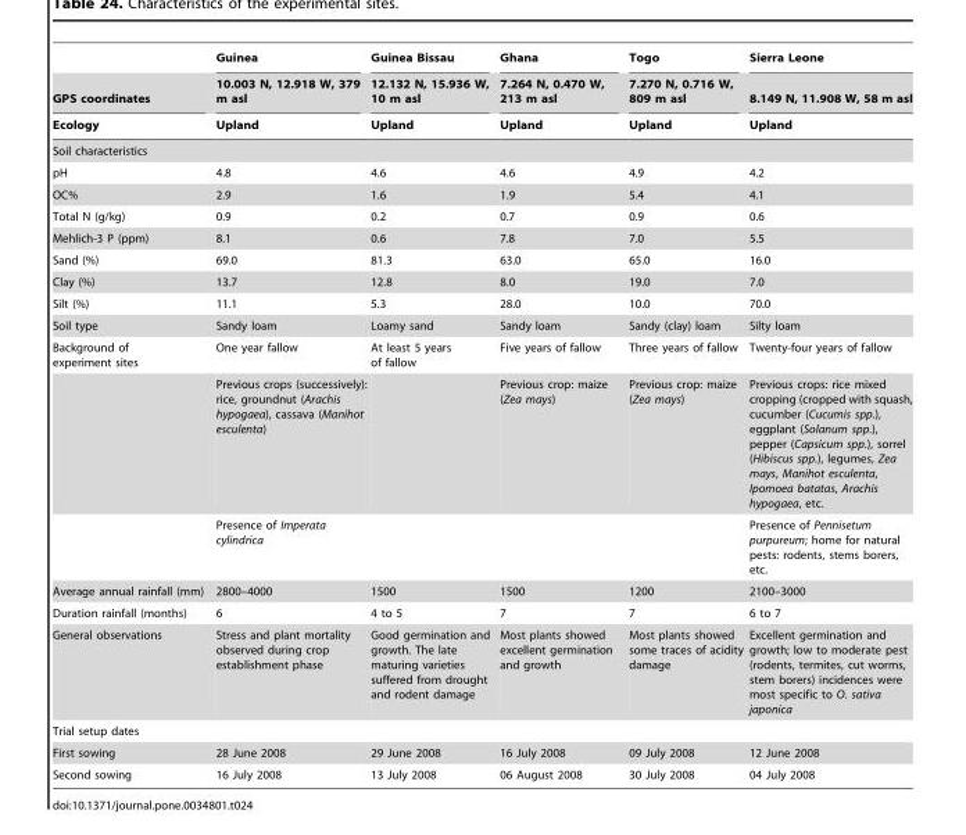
<table><thead><tr><td rowspan="3">GPS coordinates Ecology</td><td rowspan="3">Guinea 10.003 N, 12.918 W, 379 m asl Upland</td><td rowspan="3">Guinea Bissau 12.132 N, 15.936 W, 10 m asl Upland</td><td rowspan="3">Ghana 7.264 N, 0.470 W, 213 m asl Upland</td><td rowspan="3">Togo 7.270 N, 0.716 W, 809 m asl Upland</td><td rowspan="3">Sierra Leone 8.149 N, 11.908 W, 58 m asl Upland</td></tr><tr></tr><tr></tr></thead><tbody><tr><td colspan="6">Soil characteristics</td></tr><tr><td>pH</td><td>4.8</td><td>4.6</td><td>4.6</td><td>4.9</td><td>4.2</td></tr><tr><td>OC%</td><td>2.9</td><td>1.6</td><td>1.9</td><td>5.4</td><td>4.1</td></tr><tr><td>Total N (g/kg)</td><td>0.9</td><td>0.2</td><td>0.7</td><td>0.9</td><td>0.6</td></tr><tr><td>Mehlich-3 P (ppm)</td><td>8.1</td><td>0.6</td><td>7.8</td><td>7.0</td><td>5.5</td></tr><tr><td>Sand (%)</td><td>69.0</td><td>81.3</td><td>63.0</td><td>65.0</td><td>16.0</td></tr><tr><td>Clay (%)</td><td>13.7</td><td>12.8</td><td>8.0</td><td>19.0</td><td>7.0</td></tr><tr><td>Silt (%)</td><td>11.1</td><td>5.3</td><td>28.0</td><td>10.0</td><td>70.0</td></tr><tr><td>Soil type</td><td>Sandy loam</td><td>Loamy sand</td><td>Sandy loam</td><td>Sandy (clay) loam</td><td>Silty loam</td></tr><tr><td rowspan="3">Background of experiment sites</td><td>One year fallow</td><td>At least 5 years of fallow</td><td>Five years of fallow</td><td>Three years of fallow</td><td>Twenty-four years of fallow</td></tr><tr><td>Previous crops (successively): rice, groundnut (Arachis hypogaea), cassava (Manihot esculenta)</td><td></td><td>Previous crop: maize (Zea mays)</td><td>Previous crop: maize (Zea mays)</td><td>Previous crops: rice mixed cropping (cropped with squash, cucumber (Cucumis spp.), eggplant (Solanum spp.), pepper (Capsicum spp.), sorrel (Hibiscus spp.), legumes, Zea mays, Manihot esculenta, Ipomoea batatas, Arachis hypogaea, etc.</td></tr><tr><td>Presence of Imperata cylindrica</td><td></td><td></td><td></td><td>Presence of Pennisetum purpureum; home for natural pests: rodents, stems borers, etc.</td></tr><tr><td>Average annual rainfall (mm)</td><td>2800–4000</td><td>1500</td><td>1500</td><td>1200</td><td>2100–3000</td></tr><tr><td>Duration rainfall (months)</td><td>6</td><td>4 to 5</td><td>7</td><td>7</td><td>6 to 7</td></tr><tr><td>General observations</td><td>Stress and plant mortality observed during crop establishment phase</td><td>Good germination and growth. The late maturing varieties suffered from drought and rodent damage</td><td>Most plants showed excellent germination and growth</td><td>Most plants showed some traces of acidity damage</td><td>Excellent germination and growth; low to moderate pest (rodents, termites, cut worms, stem borers) incidences were most specific to O. sativa japonica</td></tr><tr><td colspan="6">Trial setup dates</td></tr><tr><td>First sowing</td><td>28 June 2008</td><td>29 June 2008</td><td>16 July 2008</td><td>09 July 2008</td><td>12 June 2008</td></tr><tr><td>Second sowing</td><td>16 July 2008</td><td>13 July 2008</td><td>06 August 2008</td><td>30 July 2008</td><td>04 July 2008</td></tr></tbody></table>